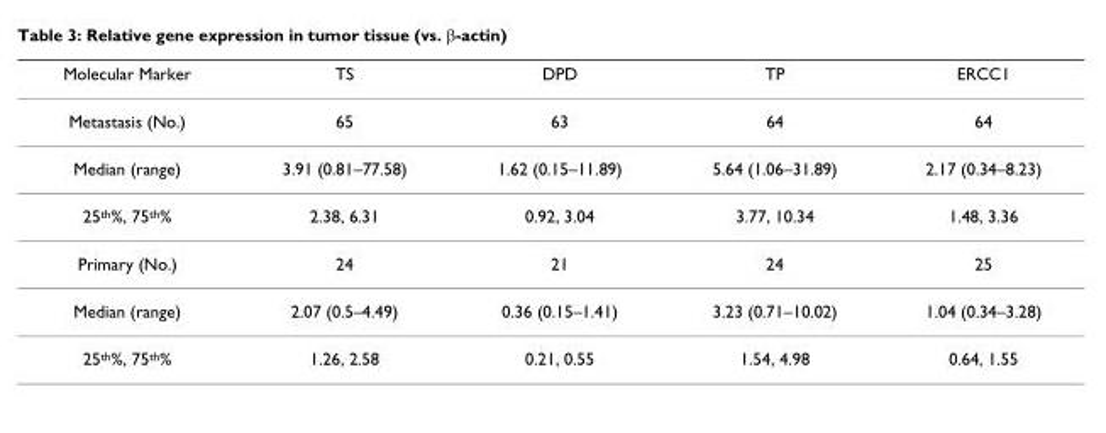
<table><thead><tr><td>Molecular Marker</td><td>TS</td><td>DPD</td><td>TP</td><td>ERCC1</td></tr></thead><tbody><tr><td>Metastasis (No.)</td><td>65</td><td>63</td><td>64</td><td>64</td></tr><tr><td>Median (range)</td><td>3.91 (0.81–77.58)</td><td>1.62 (0.15–11.89)</td><td>5.64 (1.06–31.89)</td><td>2.17 (0.34–8.23)</td></tr><tr><td>25<sup>th</sup>%, 75<sup>th</sup>%</td><td>2.38, 6.31</td><td>0.92, 3.04</td><td>3.77, 10.34</td><td>1.48, 3.36</td></tr><tr><td>Primary (No.)</td><td>24</td><td>21</td><td>24</td><td>25</td></tr><tr><td>Median (range)</td><td>2.07 (0.5–4.49)</td><td>0.36 (0.15–1.41)</td><td>3.23 (0.71–10.02)</td><td>1.04 (0.34–3.28)</td></tr><tr><td>25<sup>th</sup>%, 75<sup>th</sup>%</td><td>1.26, 2.58</td><td>0.21, 0.55</td><td>1.54, 4.98</td><td>0.64, 1.55</td></tr></tbody></table>